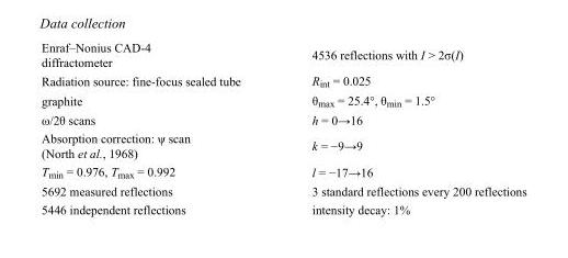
<table><tbody><tr><td>Enraf–Nonius CAD-4 diffractometer</td><td>4536 reflections with I &gt; 2σ(I)</td></tr><tr><td>Radiation source: fine-focus sealed tube</td><td>R<sub>int</sub> = 0.025</td></tr><tr><td>graphite</td><td>θ<sub>max</sub> = 25.4°, θ<sub>min</sub> = 1.5°</td></tr><tr><td>ω/2θ scans</td><td>h = 0→16</td></tr><tr><td>Absorption correction: ψ scan (North et al., 1968)</td><td>k = −9→9</td></tr><tr><td>T<sub>min</sub> = 0.976, T<sub>max</sub> = 0.992</td><td>l = −17→16</td></tr><tr><td>5692 measured reflections</td><td>3 standard reflections every 200 reflections</td></tr><tr><td>5446 independent reflections</td><td>intensity decay: 1%</td></tr></tbody></table>